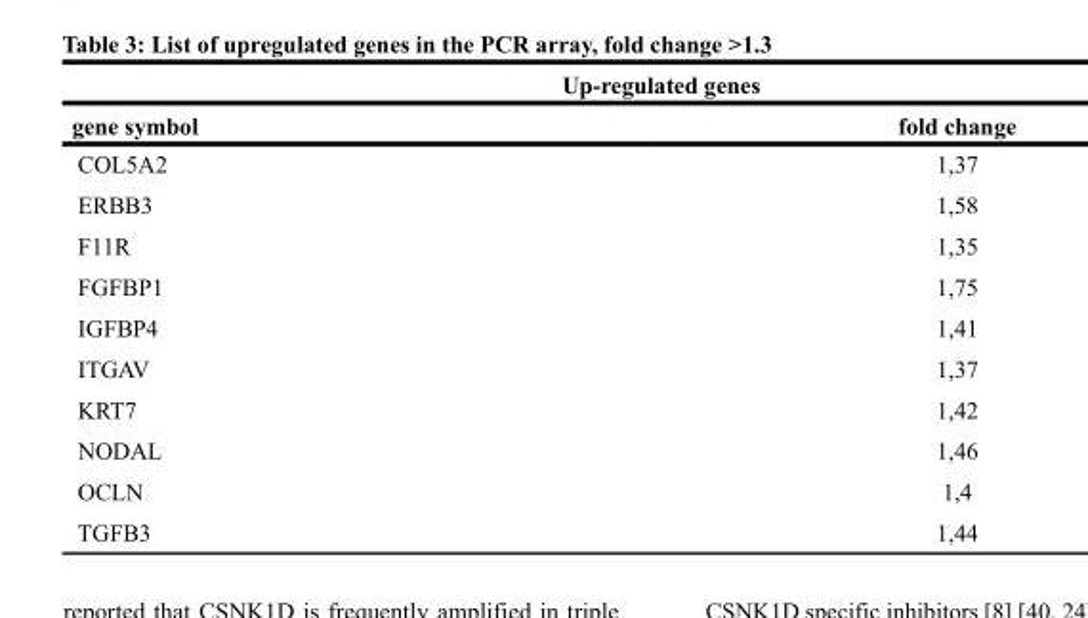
<table><thead><tr><td colspan="2">Up-regulated genes</td></tr><tr><td>gene symbol</td><td>fold change</td></tr></thead><tbody><tr><td>COL5A2</td><td>1,37</td></tr><tr><td>ERBB3</td><td>1,58</td></tr><tr><td>F11R</td><td>1,35</td></tr><tr><td>FGFBP1</td><td>1,75</td></tr><tr><td>IGFBP4</td><td>1,41</td></tr><tr><td>ITGAV</td><td>1,37</td></tr><tr><td>KRT7</td><td>1,42</td></tr><tr><td>NODAL</td><td>1,46</td></tr><tr><td>OCLN</td><td>1,4</td></tr><tr><td>TGFB3</td><td>1,44</td></tr></tbody></table>